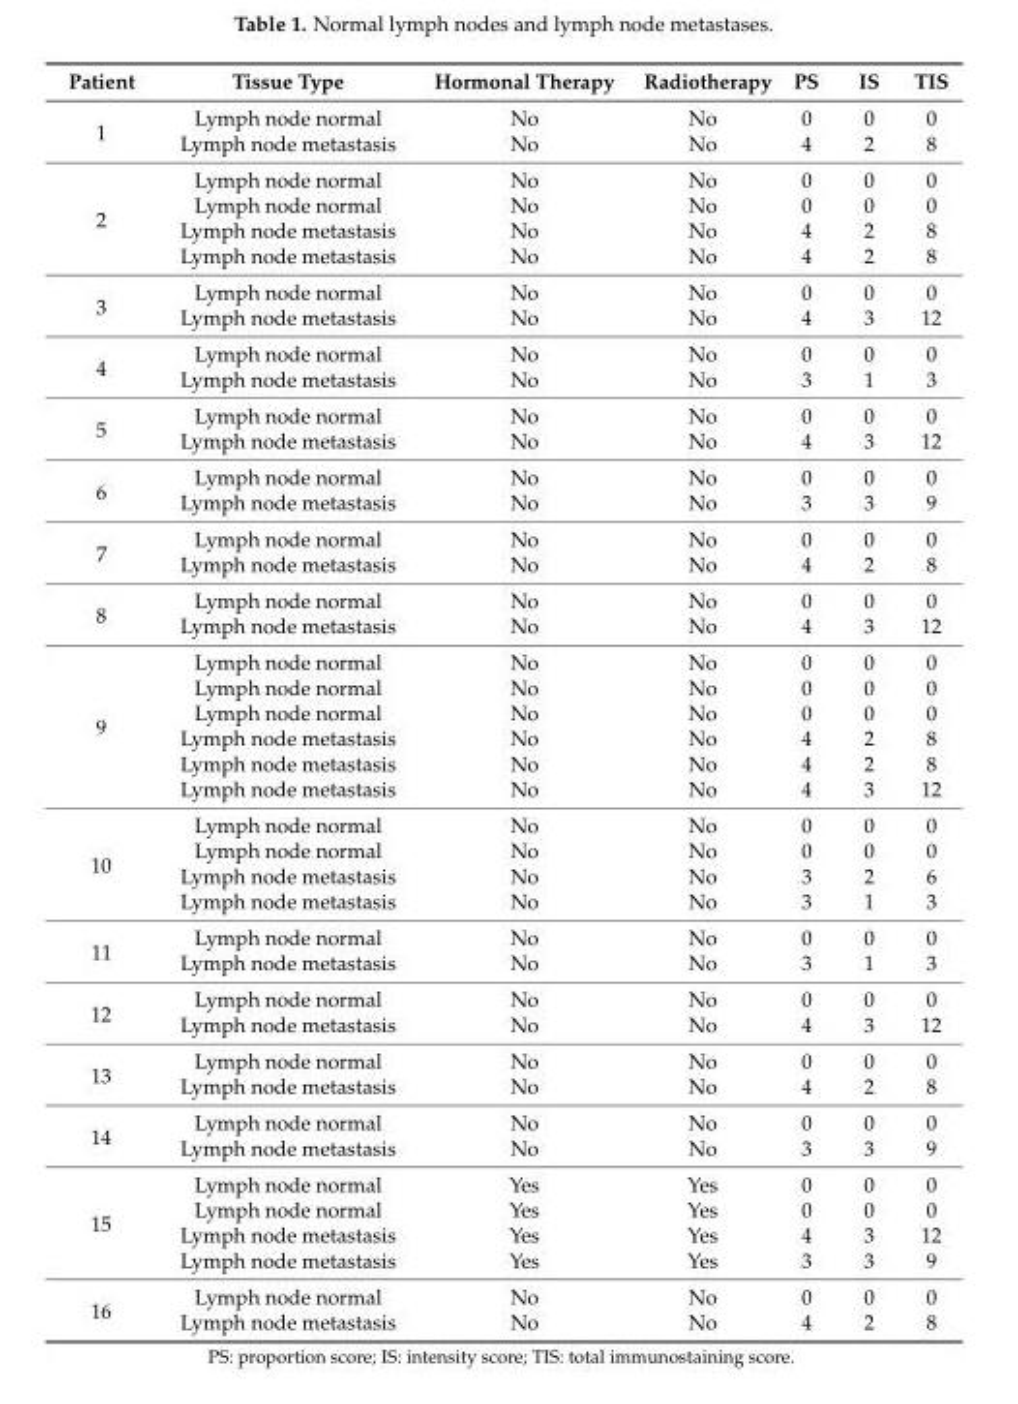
<table><thead><tr><td>Patient</td><td>Tissue Type</td><td>Hormonal Therapy</td><td>Radiotherapy</td><td>PS</td><td>IS</td><td>TIS</td></tr></thead><tbody><tr><td rowspan="2">1</td><td>Lymph node normal</td><td>No</td><td>No</td><td>0</td><td>0</td><td>0</td></tr><tr><td>Lymph node metastasis</td><td>No</td><td>No</td><td>4</td><td>2</td><td>8</td></tr><tr><td rowspan="4">2</td><td>Lymph node normal</td><td>No</td><td>No</td><td>0</td><td>0</td><td>0</td></tr><tr><td>Lymph node normal</td><td>No</td><td>No</td><td>0</td><td>0</td><td>0</td></tr><tr><td>Lymph node metastasis</td><td>No</td><td>No</td><td>4</td><td>2</td><td>8</td></tr><tr><td>Lymph node metastasis</td><td>No</td><td>No</td><td>4</td><td>2</td><td>8</td></tr><tr><td rowspan="2">3</td><td>Lymph node normal</td><td>No</td><td>No</td><td>0</td><td>0</td><td>0</td></tr><tr><td>Lymph node metastasis</td><td>No</td><td>No</td><td>4</td><td>3</td><td>12</td></tr><tr><td rowspan="2">4</td><td>Lymph node normal</td><td>No</td><td>No</td><td>0</td><td>0</td><td>0</td></tr><tr><td>Lymph node metastasis</td><td>No</td><td>No</td><td>3</td><td>1</td><td>3</td></tr><tr><td rowspan="2">5</td><td>Lymph node normal</td><td>No</td><td>No</td><td>0</td><td>0</td><td>0</td></tr><tr><td>Lymph node metastasis</td><td>No</td><td>No</td><td>4</td><td>3</td><td>12</td></tr><tr><td rowspan="2">6</td><td>Lymph node normal</td><td>No</td><td>No</td><td>0</td><td>0</td><td>0</td></tr><tr><td>Lymph node metastasis</td><td>No</td><td>No</td><td>3</td><td>3</td><td>9</td></tr><tr><td rowspan="2">7</td><td>Lymph node normal</td><td>No</td><td>No</td><td>0</td><td>0</td><td>0</td></tr><tr><td>Lymph node metastasis</td><td>No</td><td>No</td><td>4</td><td>2</td><td>8</td></tr><tr><td rowspan="2">8</td><td>Lymph node normal</td><td>No</td><td>No</td><td>0</td><td>0</td><td>0</td></tr><tr><td>Lymph node metastasis</td><td>No</td><td>No</td><td>4</td><td>3</td><td>12</td></tr><tr><td rowspan="6">9</td><td>Lymph node normal</td><td>No</td><td>No</td><td>0</td><td>0</td><td>0</td></tr><tr><td>Lymph node normal</td><td>No</td><td>No</td><td>0</td><td>0</td><td>0</td></tr><tr><td>Lymph node normal</td><td>No</td><td>No</td><td>0</td><td>0</td><td>0</td></tr><tr><td>Lymph node metastasis</td><td>No</td><td>No</td><td>4</td><td>2</td><td>8</td></tr><tr><td>Lymph node metastasis</td><td>No</td><td>No</td><td>4</td><td>2</td><td>8</td></tr><tr><td>Lymph node metastasis</td><td>No</td><td>No</td><td>4</td><td>3</td><td>12</td></tr><tr><td rowspan="4">10</td><td>Lymph node normal</td><td>No</td><td>No</td><td>0</td><td>0</td><td>0</td></tr><tr><td>Lymph node normal</td><td>No</td><td>No</td><td>0</td><td>0</td><td>0</td></tr><tr><td>Lymph node metastasis</td><td>No</td><td>No</td><td>3</td><td>2</td><td>6</td></tr><tr><td>Lymph node metastasis</td><td>No</td><td>No</td><td>3</td><td>1</td><td>3</td></tr><tr><td rowspan="2">11</td><td>Lymph node normal</td><td>No</td><td>No</td><td>0</td><td>0</td><td>0</td></tr><tr><td>Lymph node metastasis</td><td>No</td><td>No</td><td>3</td><td>1</td><td>3</td></tr><tr><td rowspan="2">12</td><td>Lymph node normal</td><td>No</td><td>No</td><td>0</td><td>0</td><td>0</td></tr><tr><td>Lymph node metastasis</td><td>No</td><td>No</td><td>4</td><td>3</td><td>12</td></tr><tr><td rowspan="2">13</td><td>Lymph node normal</td><td>No</td><td>No</td><td>0</td><td>0</td><td>0</td></tr><tr><td>Lymph node metastasis</td><td>No</td><td>No</td><td>4</td><td>2</td><td>8</td></tr><tr><td rowspan="2">14</td><td>Lymph node normal</td><td>No</td><td>No</td><td>0</td><td>0</td><td>0</td></tr><tr><td>Lymph node metastasis</td><td>No</td><td>No</td><td>3</td><td>3</td><td>9</td></tr><tr><td rowspan="4">15</td><td>Lymph node normal</td><td>Yes</td><td>Yes</td><td>0</td><td>0</td><td>0</td></tr><tr><td>Lymph node normal</td><td>Yes</td><td>Yes</td><td>0</td><td>0</td><td>0</td></tr><tr><td>Lymph node metastasis</td><td>Yes</td><td>Yes</td><td>4</td><td>3</td><td>12</td></tr><tr><td>Lymph node metastasis</td><td>Yes</td><td>Yes</td><td>3</td><td>3</td><td>9</td></tr><tr><td rowspan="2">16</td><td>Lymph node normal</td><td>No</td><td>No</td><td>0</td><td>0</td><td>0</td></tr><tr><td>Lymph node metastasis</td><td>No</td><td>No</td><td>4</td><td>2</td><td>8</td></tr></tbody></table>